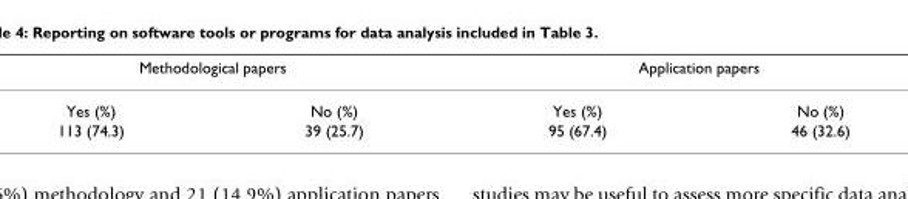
<table><thead><tr><td colspan="2">Methodological papers</td><td colspan="2">Application papers</td></tr><tr><td>Yes (%)</td><td>No (%)</td><td>Yes (%)</td><td>No (%)</td></tr></thead><tbody><tr><td>113 (74.3)</td><td>39 (25.7)</td><td>95 (67.4)</td><td>46 (32.6)</td></tr></tbody></table>